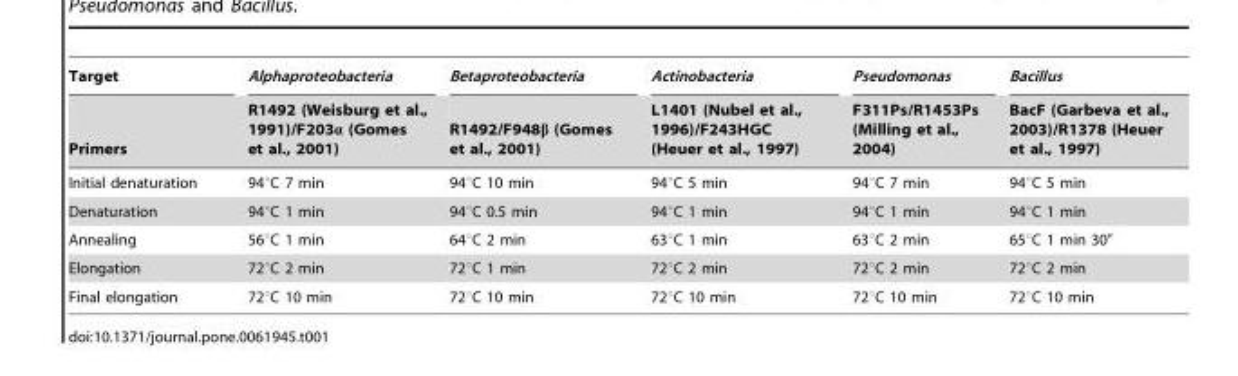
<table><thead><tr><td rowspan="2">Target Primers</td><td rowspan="2">Alphaproteobacteria R1492 (Weisburg et al., 1991)/F203α (Gomes et al., 2001)</td><td rowspan="2">Betaproteobacteria R1492/F948β (Gomes et al., 2001)</td><td rowspan="2">Actinobacteria L1401 (Nubel et al., 1996)/F243HGC (Heuer et al., 1997)</td><td rowspan="2">Pseudomonas F311Ps/R1453Ps (Milling et al., 2004)</td><td rowspan="2">Bacillus BacF (Garbeva et al., 2003)/R1378 (Heuer et al., 1997)</td></tr><tr></tr></thead><tbody><tr><td>Initial denaturation</td><td>94°C 7 min</td><td>94°C 10 min</td><td>94°C 5 min</td><td>94°C 7 min</td><td>94°C 5 min</td></tr><tr><td>Denaturation</td><td>94°C 1 min</td><td>94°C 0.5 min</td><td>94°C 1 min</td><td>94°C 1 min</td><td>94°C 1 min</td></tr><tr><td>Annealing</td><td>56°C 1 min</td><td>64°C 2 min</td><td>63°C 1 min</td><td>63°C 2 min</td><td>65°C 1 min 30″</td></tr><tr><td>Elongation</td><td>72°C 2 min</td><td>72°C 1 min</td><td>72°C 2 min</td><td>72°C 2 min</td><td>72°C 2 min</td></tr><tr><td>Final elongation</td><td>72°C 10 min</td><td>72°C 10 min</td><td>72°C 10 min</td><td>72°C 10 min</td><td>72°C 10 min</td></tr></tbody></table>